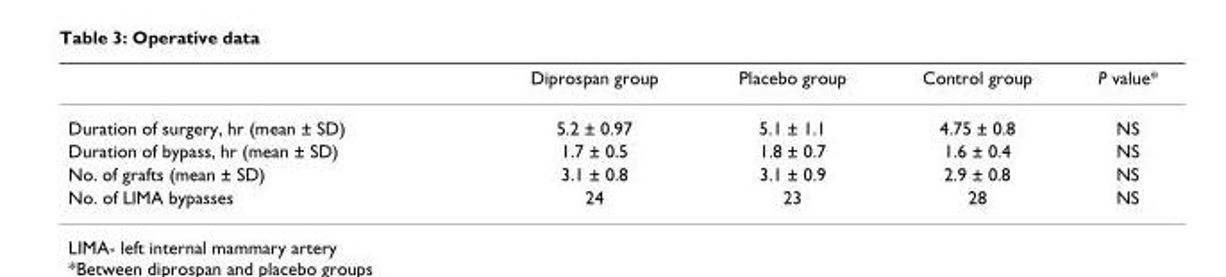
<table><thead><tr><td></td><td>Diprospan group</td><td>Placebo group</td><td>Control group</td><td>P value*</td></tr></thead><tbody><tr><td>Duration of surgery, hr (mean ± SD)</td><td>5.2 ± 0.97</td><td>5.1 ± 1.1</td><td>4.75 ± 0.8</td><td>NS</td></tr><tr><td>Duration of bypass, hr (mean ± SD)</td><td>1.7 ± 0.5</td><td>1.8 ± 0.7</td><td>1.6 ± 0.4</td><td>NS</td></tr><tr><td>No. of grafts (mean ± SD)</td><td>3.1 ± 0.8</td><td>3.1 ± 0.9</td><td>2.9 ± 0.8</td><td>NS</td></tr><tr><td>No. of LIMA bypasses</td><td>24</td><td>23</td><td>28</td><td>NS</td></tr></tbody></table>